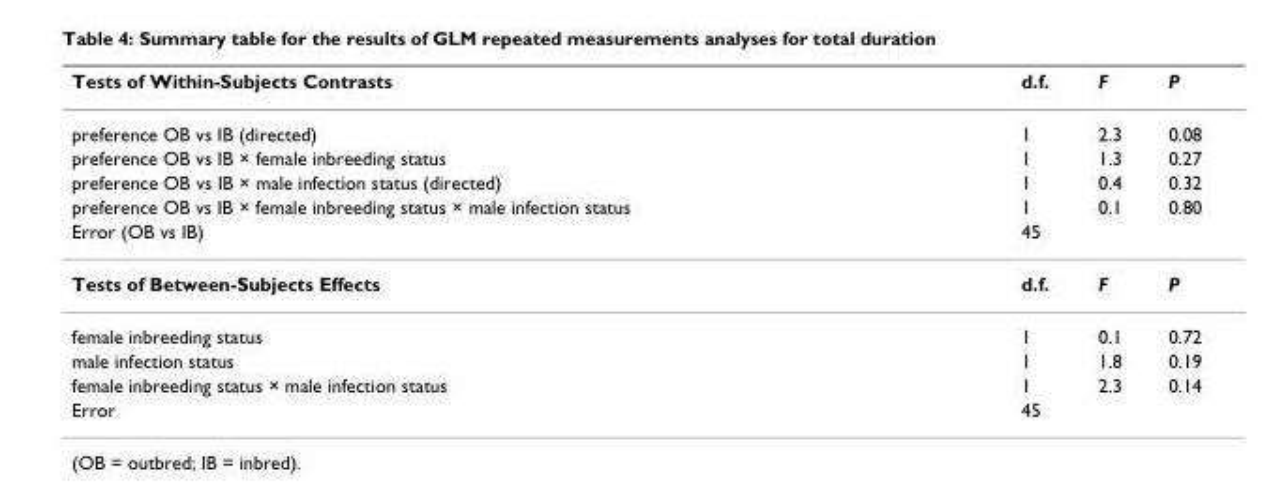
<table><thead><tr><td>Tests of Within-Subjects Contrasts</td><td>d.f.</td><td>F</td><td>P</td></tr></thead><tbody><tr><td>preference OB vs IB (directed)</td><td>1</td><td>2.3</td><td>0.08</td></tr><tr><td>preference OB vs IB × female inbreeding status</td><td>1</td><td>1.3</td><td>0.27</td></tr><tr><td>preference OB vs IB × male infection status (directed)</td><td>1</td><td>0.4</td><td>0.32</td></tr><tr><td>preference OB vs IB × female inbreeding status × male infection status</td><td>1</td><td>0.1</td><td>0.80</td></tr><tr><td>Error (OB vs IB)</td><td>45</td><td></td><td></td></tr><tr><td>Tests of Between-Subjects Effects</td><td>d.f.</td><td>F</td><td>P</td></tr><tr><td>female inbreeding status</td><td>1</td><td>0.1</td><td>0.72</td></tr><tr><td>male infection status</td><td>1</td><td>1.8</td><td>0.19</td></tr><tr><td>female inbreeding status × male infection status</td><td>1</td><td>2.3</td><td>0.14</td></tr><tr><td>Error</td><td>45</td><td></td><td></td></tr></tbody></table>